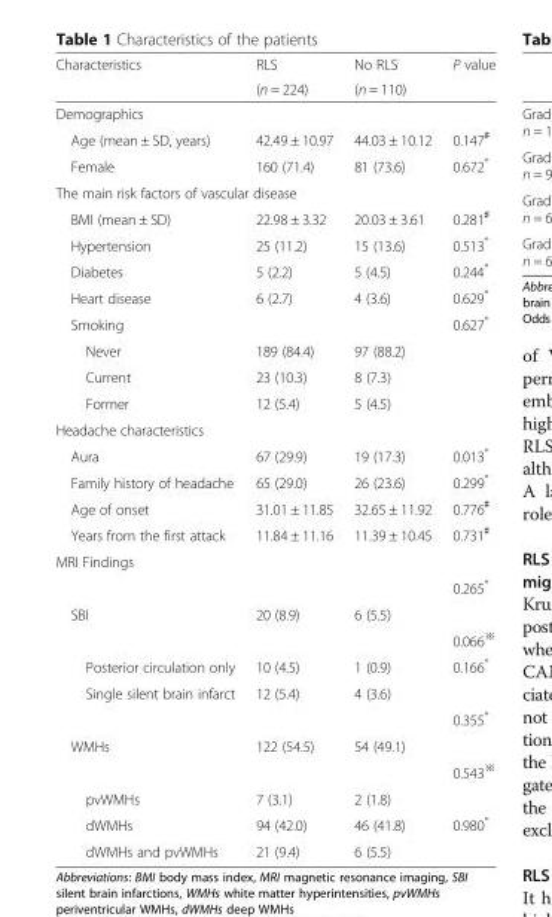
<table><thead><tr><td rowspan="2">Characteristics</td><td rowspan="2">RLS (n = 224)</td><td rowspan="2">No RLS (n = 110)</td><td rowspan="2">P value</td></tr><tr></tr></thead><tbody><tr><td colspan="4">Demographics</td></tr><tr><td>Age (mean ± SD, years)</td><td>42.49 ± 10.97</td><td>44.03 ± 10.12</td><td>0.147<sup>♯</sup></td></tr><tr><td>Female</td><td>160 (71.4)</td><td>81 (73.6)</td><td>0.672*</td></tr><tr><td colspan="4">The main risk factors of vascular disease</td></tr><tr><td>BMI (mean ± SD)</td><td>22.98 ± 3.32</td><td>20.03 ± 3.61</td><td>0.281<sup>♯</sup></td></tr><tr><td>Hypertension</td><td>25 (11.2)</td><td>15 (13.6)</td><td>0.513*</td></tr><tr><td>Diabetes</td><td>5 (2.2)</td><td>5 (4.5)</td><td>0.244*</td></tr><tr><td>Heart disease</td><td>6 (2.7)</td><td>4 (3.6)</td><td>0.629*</td></tr><tr><td>Smoking</td><td></td><td></td><td>0.627*</td></tr><tr><td>Never</td><td>189 (84.4)</td><td>97 (88.2)</td><td></td></tr><tr><td>Current</td><td>23 (10.3)</td><td>8 (7.3)</td><td></td></tr><tr><td>Former</td><td>12 (5.4)</td><td>5 (4.5)</td><td></td></tr><tr><td colspan="4">Headache characteristics</td></tr><tr><td>Aura</td><td>67 (29.9)</td><td>19 (17.3)</td><td>0.013*</td></tr><tr><td>Family history of headache</td><td>65 (29.0)</td><td>26 (23.6)</td><td>0.299*</td></tr><tr><td>Age of onset</td><td>31.01 ± 11.85</td><td>32.65 ± 11.92</td><td>0.776<sup>♯</sup></td></tr><tr><td>Years from the first attack</td><td>11.84 ± 11.16</td><td>11.39 ± 10.45</td><td>0.731<sup>♯</sup></td></tr><tr><td colspan="4">MRI Findings</td></tr><tr><td></td><td></td><td></td><td>0.265*</td></tr><tr><td rowspan="2">SBI</td><td>20 (8.9)</td><td>6 (5.5)</td><td></td></tr><tr><td></td><td></td><td>0.066<sup>※</sup></td></tr><tr><td>Posterior circulation only</td><td>10 (4.5)</td><td>1 (0.9)</td><td>0.166*</td></tr><tr><td rowspan="2">Single silent brain infarct</td><td>12 (5.4)</td><td>4 (3.6)</td><td></td></tr><tr><td></td><td></td><td>0.355*</td></tr><tr><td rowspan="2">WMHs</td><td>122 (54.5)</td><td>54 (49.1)</td><td></td></tr><tr><td></td><td></td><td>0.543<sup>※</sup></td></tr><tr><td>pvWMHs</td><td>7 (3.1)</td><td>2 (1.8)</td><td></td></tr><tr><td>dWMHs</td><td>94 (42.0)</td><td>46 (41.8)</td><td>0.980*</td></tr><tr><td>dWMHs and pvWMHs</td><td>21 (9.4)</td><td>6 (5.5)</td><td></td></tr></tbody></table>